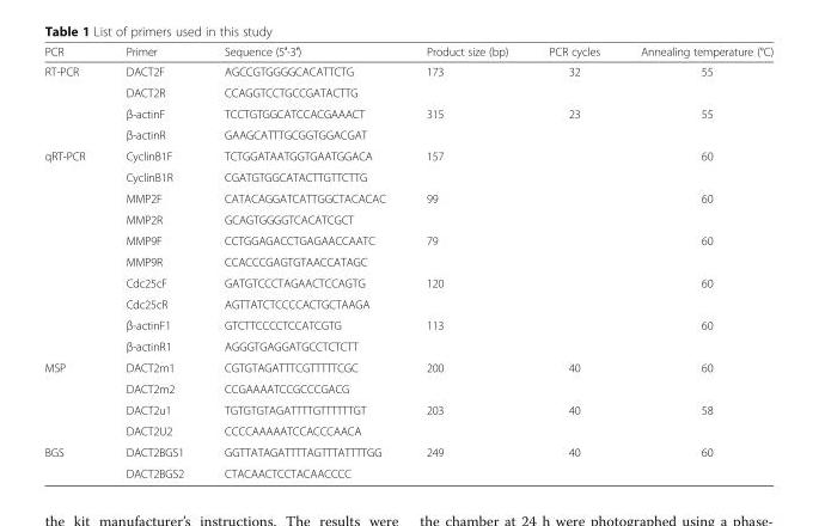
<table><thead><tr><td>PCR</td><td>Primer</td><td>Sequence (5′-3′)</td><td>Product size (bp)</td><td>PCR cycles</td><td>Annealing temperature (°C)</td></tr></thead><tbody><tr><td rowspan="4">RT-PCR</td><td>DACT2F</td><td>AGCCGTGGGGCACATTCTG</td><td>173</td><td rowspan="2">32</td><td>55</td></tr><tr><td>DACT2R</td><td>CCAGGTCCTGCCGATACTTG</td><td></td><td></td></tr><tr><td>β-actinF</td><td>TCCTGTGGCATCCACGAAACT</td><td>315</td><td rowspan="2">23</td><td>55</td></tr><tr><td>β-actinR</td><td>GAAGCATTTGCGGTGGACGAT</td><td></td><td></td></tr><tr><td rowspan="10">qRT-PCR</td><td>CyclinB1F</td><td>TCTGGATAATGGTGAATGGACA</td><td>157</td><td rowspan="10"></td><td>60</td></tr><tr><td>CyclinB1R</td><td>CGATGTGGCATACTTGTTCTTG</td><td></td><td></td></tr><tr><td>MMP2F</td><td>CATACAGGATCATTGGCTACACAC</td><td>99</td><td>60</td></tr><tr><td>MMP2R</td><td>GCAGTGGGGTCACATCGCT</td><td></td><td></td></tr><tr><td>MMP9F</td><td>CCTGGAGACCTGAGAACCAATC</td><td>79</td><td>60</td></tr><tr><td>MMP9R</td><td>CCACCCGAGTGTAACCATAGC</td><td></td><td></td></tr><tr><td>Cdc25cF</td><td>GATGTCCCTAGAACTCCAGTG</td><td>120</td><td>60</td></tr><tr><td>Cdc25cR</td><td>AGTTATCTCCCCACTGCTAAGA</td><td></td><td></td></tr><tr><td>β-actinF1</td><td>GTCTTCCCCTCCATCGTG</td><td>113</td><td>60</td></tr><tr><td>β-actinR1</td><td>AGGGTGAGGATGCCTCTCTT</td><td></td><td></td></tr><tr><td rowspan="4">MSP</td><td>DACT2m1</td><td>CGTGTAGATTTCGTTTTTCGC</td><td>200</td><td rowspan="2">40</td><td>60</td></tr><tr><td>DACT2m2</td><td>CCGAAAATCCGCCCGACG</td><td></td><td></td></tr><tr><td>DACT2u1</td><td>TGTGTGTAGATTTTGTTTTTTGT</td><td>203</td><td rowspan="2">40</td><td>58</td></tr><tr><td>DACT2U2</td><td>CCCCAAAAATCCACCCAACA</td><td></td><td></td></tr><tr><td rowspan="2">BGS</td><td>DACT2BGS1</td><td>GGTTATAGATTTTAGTTTATTTTGG</td><td>249</td><td rowspan="2">40</td><td>60</td></tr><tr><td>DACT2BGS2</td><td>CTACAACTCCTACAACCCC</td><td></td><td></td></tr></tbody></table>